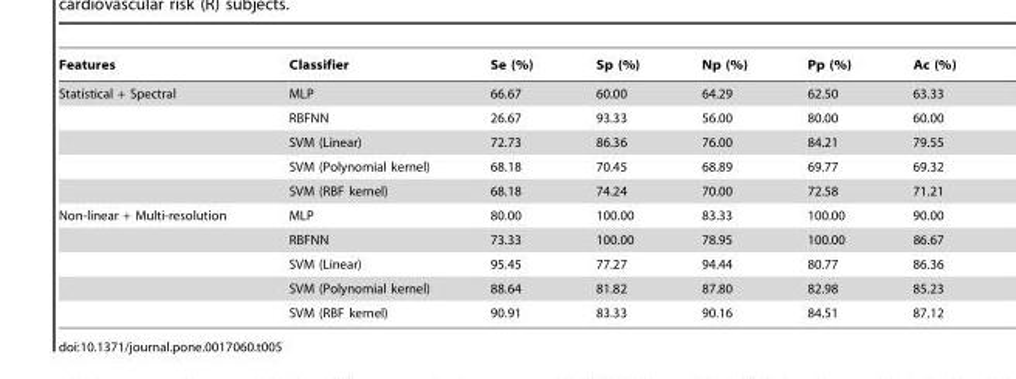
<table><thead><tr><td>Features</td><td>Classifier</td><td>Se (%)</td><td>Sp (%)</td><td>Np (%)</td><td>Pp (%)</td><td>Ac (%)</td></tr></thead><tbody><tr><td rowspan="5">Statistical + Spectral</td><td>MLP</td><td>66.67</td><td>60.00</td><td>64.29</td><td>62.50</td><td>63.33</td></tr><tr><td>RBFNN</td><td>26.67</td><td>93.33</td><td>56.00</td><td>80.00</td><td>60.00</td></tr><tr><td>SVM (Linear)</td><td>72.73</td><td>86.36</td><td>76.00</td><td>84.21</td><td>79.55</td></tr><tr><td>SVM (Polynomial kernel)</td><td>68.18</td><td>70.45</td><td>68.89</td><td>69.77</td><td>69.32</td></tr><tr><td>SVM (RBF kernel)</td><td>68.18</td><td>74.24</td><td>70.00</td><td>72.58</td><td>71.21</td></tr><tr><td rowspan="5">Non-linear + Multi-resolution</td><td>MLP</td><td>80.00</td><td>100.00</td><td>83.33</td><td>100.00</td><td>90.00</td></tr><tr><td>RBFNN</td><td>73.33</td><td>100.00</td><td>78.95</td><td>100.00</td><td>86.67</td></tr><tr><td>SVM (Linear)</td><td>95.45</td><td>77.27</td><td>94.44</td><td>80.77</td><td>86.36</td></tr><tr><td>SVM (Polynomial kernel)</td><td>88.64</td><td>81.82</td><td>87.80</td><td>82.98</td><td>85.23</td></tr><tr><td>SVM (RBF kernel)</td><td>90.91</td><td>83.33</td><td>90.16</td><td>84.51</td><td>87.12</td></tr></tbody></table>